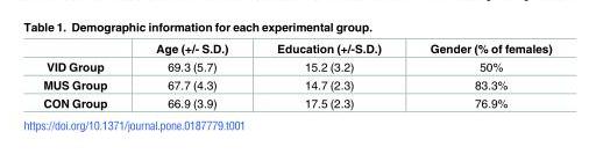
<table><thead><tr><td></td><td>Age (+/- S.D.)</td><td>Education (+/-S.D.)</td><td>Gender (% of females)</td></tr></thead><tbody><tr><td>VID Group</td><td>69.3 (5.7)</td><td>15.2 (3.2)</td><td>50%</td></tr><tr><td>MUS Group</td><td>67.7 (4.3)</td><td>14.7 (2.3)</td><td>83.3%</td></tr><tr><td>CON Group</td><td>66.9 (3.9)</td><td>17.5 (2.3)</td><td>76.9%</td></tr></tbody></table>